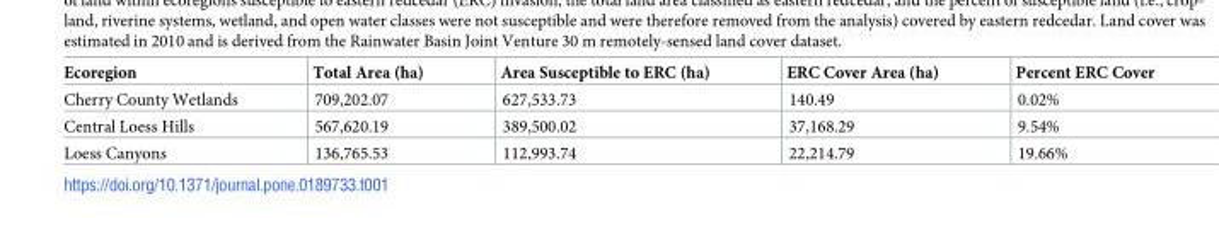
<table><thead><tr><td>Ecoregion</td><td>Total Area (ha)</td><td>Area Susceptible to ERC (ha)</td><td>ERC Cover Area (ha)</td><td>Percent ERC Cover</td></tr></thead><tbody><tr><td>Cherry County Wetlands</td><td>709,202.07</td><td>627,533.73</td><td>140.49</td><td>0.02%</td></tr><tr><td>Central Loess Hills</td><td>567,620.19</td><td>389,500.02</td><td>37,168.29</td><td>9.54%</td></tr><tr><td>Loess Canyons</td><td>136,765.53</td><td>112,993.74</td><td>22,214.79</td><td>19.66%</td></tr></tbody></table>